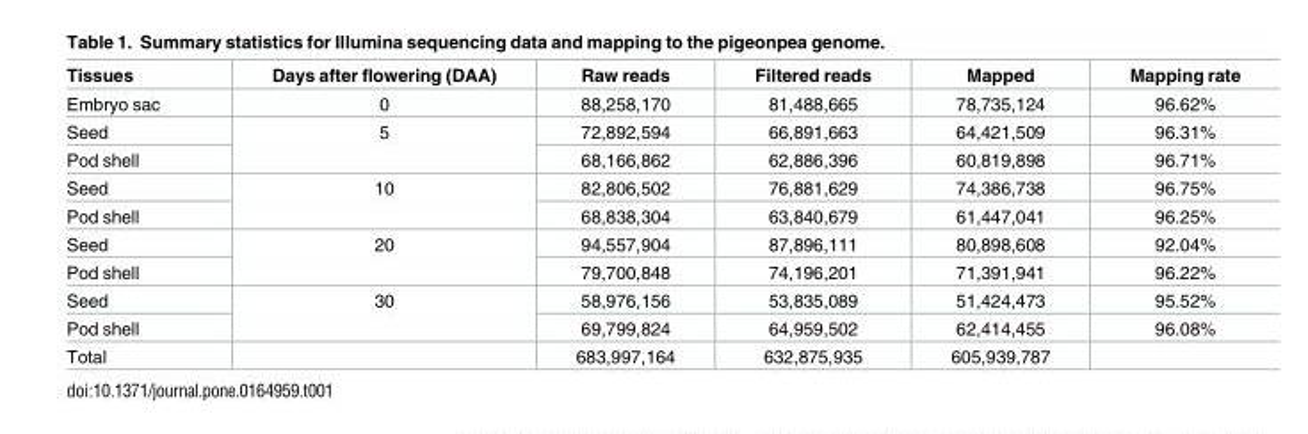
<table><thead><tr><td>Tissues</td><td>Days after flowering (DAA)</td><td>Raw reads</td><td>Filtered reads</td><td>Mapped</td><td>Mapping rate</td></tr></thead><tbody><tr><td>Embryo sac</td><td>0</td><td>88,258,170</td><td>81,488,665</td><td>78,735,124</td><td>96.62%</td></tr><tr><td>Seed</td><td rowspan="2">5</td><td>72,892,594</td><td>66,891,663</td><td>64,421,509</td><td>96.31%</td></tr><tr><td>Pod shell</td><td>68,166,862</td><td>62,886,396</td><td>60,819,898</td><td>96.71%</td></tr><tr><td>Seed</td><td rowspan="2">10</td><td>82,806,502</td><td>76,881,629</td><td>74,386,738</td><td>96.75%</td></tr><tr><td>Pod shell</td><td>68,838,304</td><td>63,840,679</td><td>61,447,041</td><td>96.25%</td></tr><tr><td>Seed</td><td rowspan="2">20</td><td>94,557,904</td><td>87,896,111</td><td>80,898,608</td><td>92.04%</td></tr><tr><td>Pod shell</td><td>79,700,848</td><td>74,196,201</td><td>71,391,941</td><td>96.22%</td></tr><tr><td>Seed</td><td rowspan="2">30</td><td>58,976,156</td><td>53,835,089</td><td>51,424,473</td><td>95.52%</td></tr><tr><td>Pod shell</td><td>69,799,824</td><td>64,959,502</td><td>62,414,455</td><td>96.08%</td></tr><tr><td>Total</td><td></td><td>683,997,164</td><td>632,875,935</td><td>605,939,787</td><td></td></tr></tbody></table>